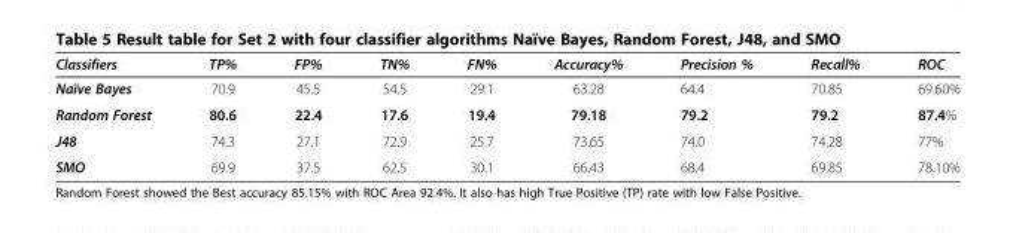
<table><thead><tr><td>Classifiers</td><td>TP%</td><td>FP%</td><td>TN%</td><td>FN%</td><td>Accuracy%</td><td>Precision %</td><td>Recall%</td><td>ROC</td></tr></thead><tbody><tr><td>Naïve Bayes</td><td>70.9</td><td>45.5</td><td>54.5</td><td>29.1</td><td>63.28</td><td>64.4</td><td>70.85</td><td>69.60%</td></tr><tr><td>Random Forest</td><td>80.6</td><td>22.4</td><td>17.6</td><td>19.4</td><td>79.18</td><td>79.2</td><td>79.2</td><td>87.4%</td></tr><tr><td>J48</td><td>74.3</td><td>27.1</td><td>72.9</td><td>25.7</td><td>73.65</td><td>74.0</td><td>74.28</td><td>77%</td></tr><tr><td>SMO</td><td>69.9</td><td>37.5</td><td>62.5</td><td>30.1</td><td>66.43</td><td>68.4</td><td>69.85</td><td>78.10%</td></tr></tbody></table>